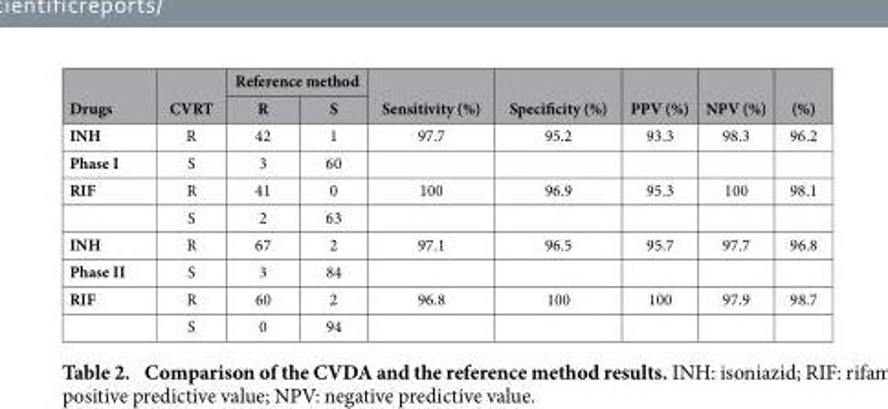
<table><thead><tr><td rowspan="2">Drugs</td><td rowspan="2">CVRT</td><td colspan="2">Reference method</td><td rowspan="2">Sensitivity (%)</td><td rowspan="2">Specificity (%)</td><td rowspan="2">PPV (%)</td><td rowspan="2">NPV (%)</td><td rowspan="2">(%)</td></tr><tr><td>R</td><td>S</td></tr></thead><tbody><tr><td>INH</td><td>R</td><td>42</td><td>1</td><td>97.7</td><td>95.2</td><td>93.3</td><td>98.3</td><td>96.2</td></tr><tr><td>Phase I</td><td>S</td><td>3</td><td>60</td><td></td><td></td><td></td><td></td><td></td></tr><tr><td rowspan="2">RIF</td><td>R</td><td>41</td><td>0</td><td>100</td><td>96.9</td><td>95.3</td><td>100</td><td>98.1</td></tr><tr><td>S</td><td>2</td><td>63</td><td></td><td></td><td></td><td></td><td></td></tr><tr><td>INH</td><td>R</td><td>67</td><td>2</td><td>97.1</td><td>96.5</td><td>95.7</td><td>97.7</td><td>96.8</td></tr><tr><td>Phase II</td><td>S</td><td>3</td><td>84</td><td></td><td></td><td></td><td></td><td></td></tr><tr><td rowspan="2">RIF</td><td>R</td><td>60</td><td>2</td><td>96.8</td><td>100</td><td>100</td><td>97.9</td><td>98.7</td></tr><tr><td>S</td><td>0</td><td>94</td><td></td><td></td><td></td><td></td><td></td></tr></tbody></table>